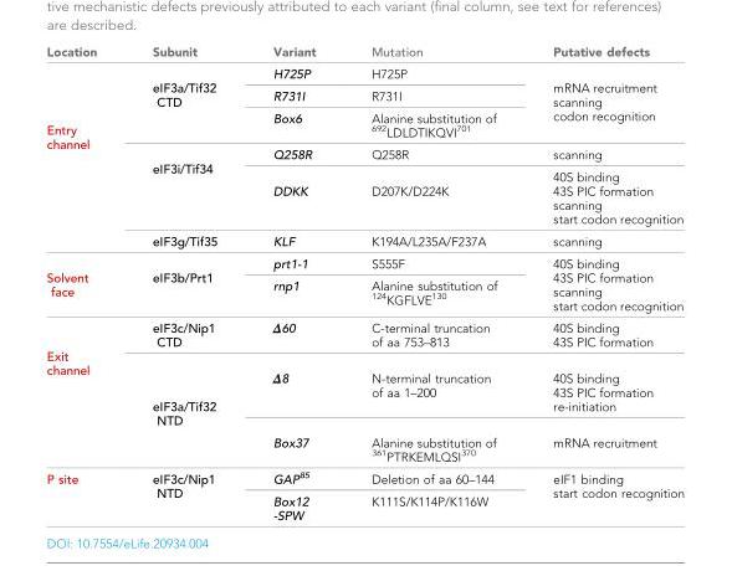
<table><thead><tr><td>Location</td><td>Subunit</td><td>Variant</td><td>Mutation</td><td>Putative defects</td></tr></thead><tbody><tr><td rowspan="6">Entry channel</td><td rowspan="3">eIF3a/Tif32 CTD</td><td>H725P</td><td>H725P</td><td rowspan="3">mRNA recruitment scanning codon recognition</td></tr><tr><td>R731I</td><td>R731I</td></tr><tr><td>Box6</td><td>Alanine substitution of <sup>692</sup>LDLDTIKQVI<sup>701</sup></td></tr><tr><td rowspan="2">eIF3i/Tif34</td><td>Q258R</td><td>Q258R</td><td>scanning</td></tr><tr><td>DDKK</td><td>D207K/D224K</td><td>40S binding 43S PIC formation scanning start codon recognition</td></tr><tr><td>eIF3g/Tif35</td><td>KLF</td><td>K194A/L235A/F237A</td><td>scanning</td></tr><tr><td rowspan="2">Solvent face</td><td rowspan="2">eIF3b/Prt1</td><td>prt1-1</td><td>S555F</td><td rowspan="2">40S binding 43S PIC formation scanning start codon recognition</td></tr><tr><td>rnp1</td><td>Alanine substitution of <sup>124</sup>KGFLVE<sup>130</sup></td></tr><tr><td rowspan="3">Exit channel</td><td>eIF3c/Nip1 CTD</td><td>∆60</td><td>C-terminal truncation of aa 753–813</td><td>40S binding 43S PIC formation</td></tr><tr><td rowspan="2">eIF3a/Tif32 NTD</td><td>∆8</td><td>N-terminal truncation of aa 1–200</td><td>40S binding 43S PIC formation re-initiation</td></tr><tr><td>Box37</td><td>Alanine substitution of <sup>361</sup>PTRKEMLQSI<sup>370</sup></td><td>mRNA recruitment</td></tr><tr><td rowspan="2">P site</td><td rowspan="2">eIF3c/Nip1 NTD</td><td>GAP<sup>85</sup></td><td>Deletion of aa 60–144</td><td rowspan="2">eIF1 binding start codon recognition</td></tr><tr><td>Box12 -SPW</td><td>K111S/K114P/K116W</td></tr></tbody></table>